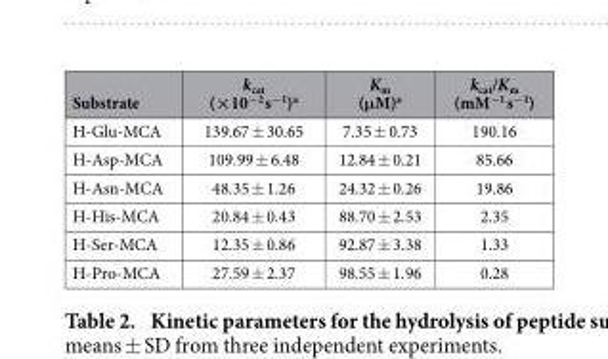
<table><thead><tr><td>Substrate</td><td>k<sub>cat</sub> (×10<sup>−2</sup> s<sup>−1</sup>)<sup>a</sup></td><td>K<sub>m</sub> (μM)<sup>a</sup></td><td>k<sub>cat</sub>/K<sub>m</sub> (mM<sup>−1</sup> s<sup>−1</sup>)</td></tr></thead><tbody><tr><td>H-Glu-MCA</td><td>139.67 ± 30.65</td><td>7.35 ± 0.73</td><td>190.16</td></tr><tr><td>H-Asp-MCA</td><td>109.99 ± 6.48</td><td>12.84 ± 0.21</td><td>85.66</td></tr><tr><td>H-Asn-MCA</td><td>48.35 ± 1.26</td><td>24.32 ± 0.26</td><td>19.86</td></tr><tr><td>H-His-MCA</td><td>20.84 ± 0.43</td><td>88.70 ± 2.53</td><td>2.35</td></tr><tr><td>H-Ser-MCA</td><td>12.35 ± 0.86</td><td>92.87 ± 3.38</td><td>1.33</td></tr><tr><td>H-Pro-MCA</td><td>27.59 ± 2.37</td><td>98.55 ± 1.96</td><td>0.28</td></tr></tbody></table>